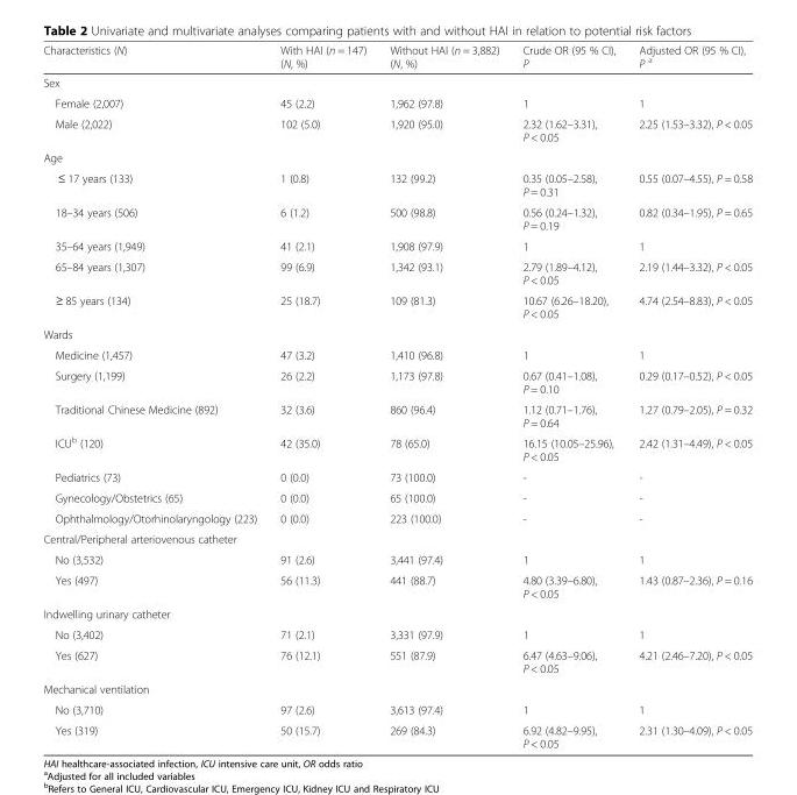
<table><thead><tr><td>Characteristics (N)</td><td>With HAI (n = 147) (N, %)</td><td>Without HAI (n = 3,882) (N, %)</td><td>Crude OR (95 % CI), P</td><td>Adjusted OR (95 % CI), P <sup>a</sup></td></tr></thead><tbody><tr><td colspan="5">Sex</td></tr><tr><td>Female (2,007)</td><td>45 (2.2)</td><td>1,962 (97.8)</td><td>1</td><td>1</td></tr><tr><td>Male (2,022)</td><td>102 (5.0)</td><td>1,920 (95.0)</td><td>2.32 (1.62–3.31), P &lt; 0.05</td><td>2.25 (1.53–3.32), P &lt; 0.05</td></tr><tr><td colspan="5">Age</td></tr><tr><td>≤ 17 years (133)</td><td>1 (0.8)</td><td>132 (99.2)</td><td>0.35 (0.05–2.58), P = 0.31</td><td>0.55 (0.07–4.55), P = 0.58</td></tr><tr><td>18–34 years (506)</td><td>6 (1.2)</td><td>500 (98.8)</td><td>0.56 (0.24–1.32), P = 0.19</td><td>0.82 (0.34–1.95), P = 0.65</td></tr><tr><td>35–64 years (1,949)</td><td>41 (2.1)</td><td>1,908 (97.9)</td><td>1</td><td>1</td></tr><tr><td>65–84 years (1,307)</td><td>99 (6.9)</td><td>1,342 (93.1)</td><td>2.79 (1.89–4.12), P &lt; 0.05</td><td>2.19 (1.44–3.32), P &lt; 0.05</td></tr><tr><td>≥ 85 years (134)</td><td>25 (18.7)</td><td>109 (81.3)</td><td>10.67 (6.26–18.20), P &lt; 0.05</td><td>4.74 (2.54–8.83), P &lt; 0.05</td></tr><tr><td colspan="5">Wards</td></tr><tr><td>Medicine (1,457)</td><td>47 (3.2)</td><td>1,410 (96.8)</td><td>1</td><td>1</td></tr><tr><td>Surgery (1,199)</td><td>26 (2.2)</td><td>1,173 (97.8)</td><td>0.67 (0.41–1.08), P = 0.10</td><td>0.29 (0.17–0.52), P &lt; 0.05</td></tr><tr><td>Traditional Chinese Medicine (892)</td><td>32 (3.6)</td><td>860 (96.4)</td><td>1.12 (0.71–1.76), P = 0.64</td><td>1.27 (0.79–2.05), P = 0.32</td></tr><tr><td>ICU<sup>b</sup> (120)</td><td>42 (35.0)</td><td>78 (65.0)</td><td>16.15 (10.05–25.96), P &lt; 0.05</td><td>2.42 (1.31–4.49), P &lt; 0.05</td></tr><tr><td>Pediatrics (73)</td><td>0 (0.0)</td><td>73 (100.0)</td><td>-</td><td>-</td></tr><tr><td>Gynecology/Obstetrics (65)</td><td>0 (0.0)</td><td>65 (100.0)</td><td>-</td><td>-</td></tr><tr><td>Ophthalmology/Otorhinolaryngology (223)</td><td>0 (0.0)</td><td>223 (100.0)</td><td>-</td><td>-</td></tr><tr><td colspan="5">Central/Peripheral arteriovenous catheter</td></tr><tr><td>No (3,532)</td><td>91 (2.6)</td><td>3,441 (97.4)</td><td>1</td><td>1</td></tr><tr><td>Yes (497)</td><td>56 (11.3)</td><td>441 (88.7)</td><td>4.80 (3.39–6.80), P &lt; 0.05</td><td>1.43 (0.87–2.36), P = 0.16</td></tr><tr><td colspan="5">Indwelling urinary catheter</td></tr><tr><td>No (3,402)</td><td>71 (2.1)</td><td>3,331 (97.9)</td><td>1</td><td>1</td></tr><tr><td>Yes (627)</td><td>76 (12.1)</td><td>551 (87.9)</td><td>6.47 (4.63–9.06), P &lt; 0.05</td><td>4.21 (2.46–7.20), P &lt; 0.05</td></tr><tr><td colspan="5">Mechanical ventilation</td></tr><tr><td>No (3,710)</td><td>97 (2.6)</td><td>3,613 (97.4)</td><td>1</td><td>1</td></tr><tr><td>Yes (319)</td><td>50 (15.7)</td><td>269 (84.3)</td><td>6.92 (4.82–9.95), P &lt; 0.05</td><td>2.31 (1.30–4.09), P &lt; 0.05</td></tr></tbody></table>